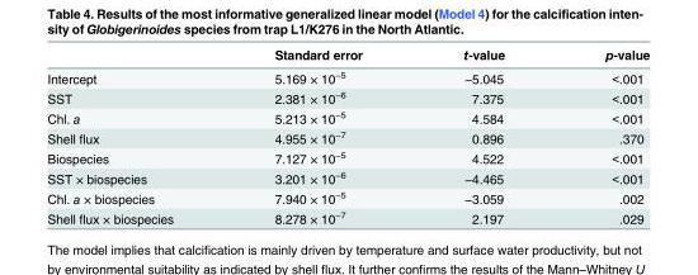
<table><thead><tr><td></td><td>Standard error</td><td>t-value</td><td>p-value</td></tr></thead><tbody><tr><td>Intercept</td><td>5.169 × 10<sup>−5</sup></td><td>−5.045</td><td>&lt;.001</td></tr><tr><td>SST</td><td>2.381 × 10<sup>−6</sup></td><td>7.375</td><td>&lt;.001</td></tr><tr><td>Chl. a</td><td>5.213 × 10<sup>−5</sup></td><td>4.584</td><td>&lt;.001</td></tr><tr><td>Shell flux</td><td>4.955 × 10<sup>−7</sup></td><td>0.896</td><td>.370</td></tr><tr><td>Biospecies</td><td>7.127 × 10<sup>−5</sup></td><td>4.522</td><td>&lt;.001</td></tr><tr><td>SST × biospecies</td><td>3.201 × 10<sup>−6</sup></td><td>−4.465</td><td>&lt;.001</td></tr><tr><td>Chl. a × biospecies</td><td>7.940 × 10<sup>−5</sup></td><td>−3.059</td><td>.002</td></tr><tr><td>Shell flux × biospecies</td><td>8.278 × 10<sup>−7</sup></td><td>2.197</td><td>.029</td></tr></tbody></table>